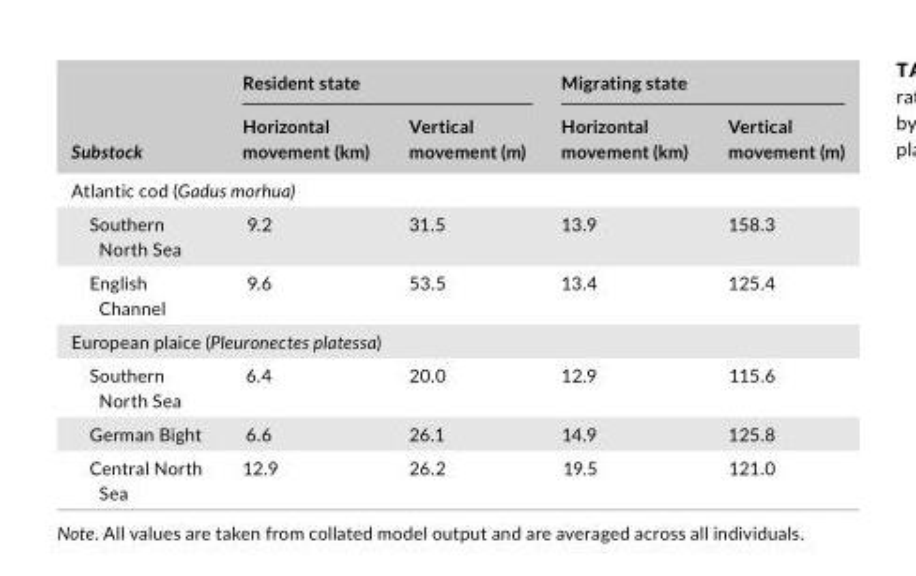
<table><thead><tr><td rowspan="2">Substock</td><td colspan="2">Resident state</td><td colspan="2">Migrating state</td></tr><tr><td>Horizontal movement (km)</td><td>Vertical movement (m)</td><td>Horizontal movement (km)</td><td>Vertical movement (m)</td></tr></thead><tbody><tr><td colspan="5">Atlantic cod (Gadus morhua)</td></tr><tr><td>Southern North Sea</td><td>9.2</td><td>31.5</td><td>13.9</td><td>158.3</td></tr><tr><td>English Channel</td><td>9.6</td><td>53.5</td><td>13.4</td><td>125.4</td></tr><tr><td colspan="5">European plaice (Pleuronectes platessa)</td></tr><tr><td>Southern North Sea</td><td>6.4</td><td>20.0</td><td>12.9</td><td>115.6</td></tr><tr><td>German Bight</td><td>6.6</td><td>26.1</td><td>14.9</td><td>125.8</td></tr><tr><td>Central North Sea</td><td>12.9</td><td>26.2</td><td>19.5</td><td>121.0</td></tr></tbody></table>